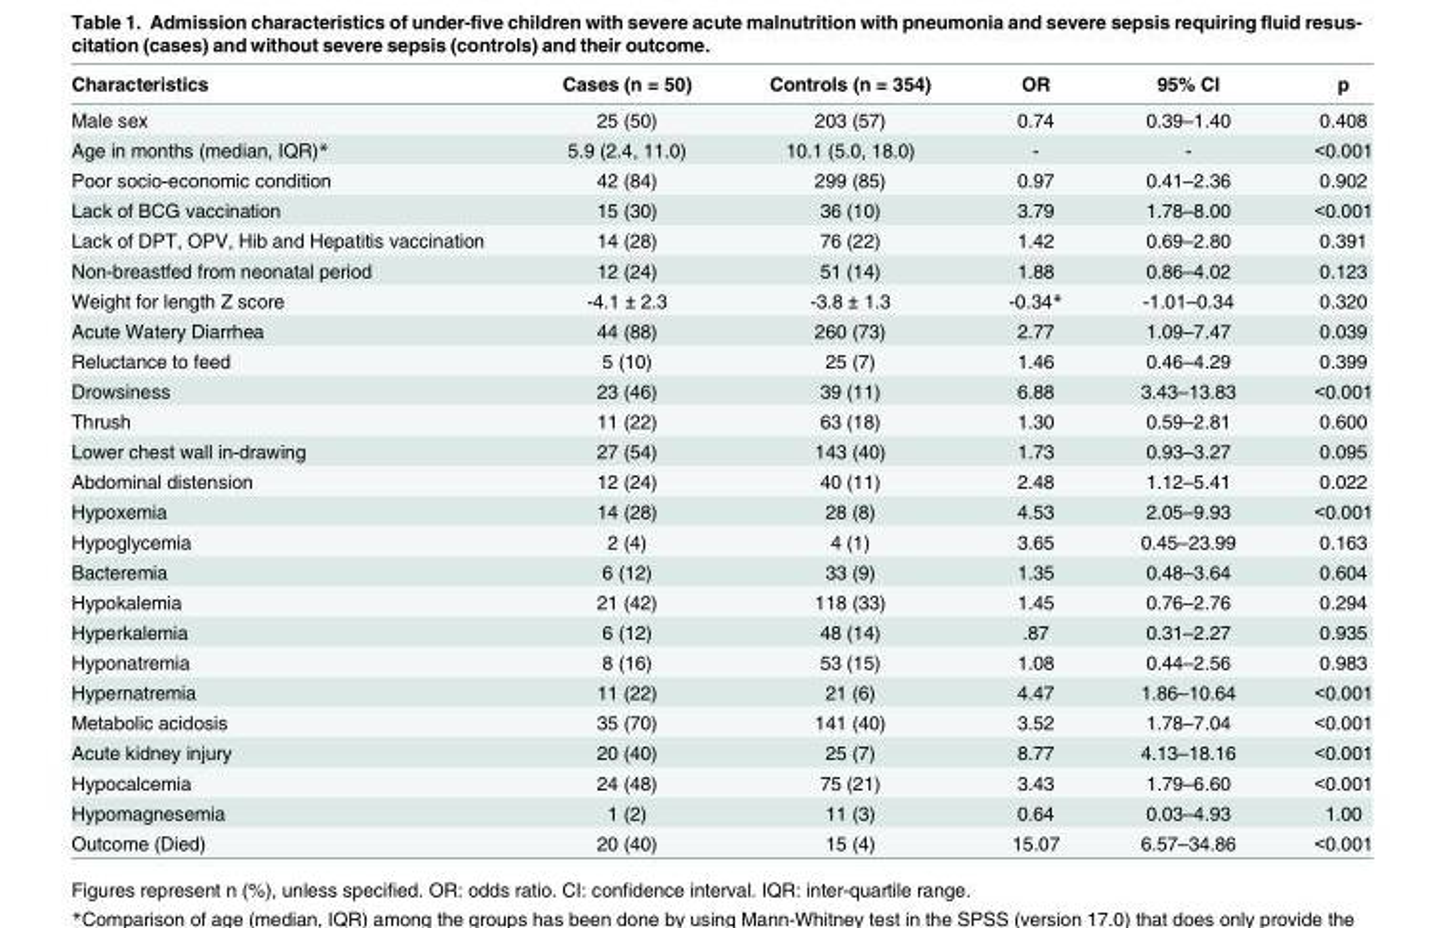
<table><thead><tr><td>Characteristics</td><td>Cases (n = 50)</td><td>Controls (n = 354)</td><td>OR</td><td>95% CI</td><td>p</td></tr></thead><tbody><tr><td>Male sex</td><td>25 (50)</td><td>203 (57)</td><td>0.74</td><td>0.39–1.40</td><td>0.408</td></tr><tr><td>Age in months (median, IQR)*</td><td>5.9 (2.4, 11.0)</td><td>10.1 (5.0, 18.0)</td><td>-</td><td>-</td><td>&lt;0.001</td></tr><tr><td>Poor socio-economic condition</td><td>42 (84)</td><td>299 (85)</td><td>0.97</td><td>0.41–2.36</td><td>0.902</td></tr><tr><td>Lack of BCG vaccination</td><td>15 (30)</td><td>36 (10)</td><td>3.79</td><td>1.78–8.00</td><td>&lt;0.001</td></tr><tr><td>Lack of DPT, OPV, Hib and Hepatitis vaccination</td><td>14 (28)</td><td>76 (22)</td><td>1.42</td><td>0.69–2.80</td><td>0.391</td></tr><tr><td>Non-breastfed from neonatal period</td><td>12 (24)</td><td>51 (14)</td><td>1.88</td><td>0.86–4.02</td><td>0.123</td></tr><tr><td>Weight for length Z score</td><td>-4.1 ± 2.3</td><td>-3.8 ± 1.3</td><td>-0.34*</td><td>-1.01–0.34</td><td>0.320</td></tr><tr><td>Acute Watery Diarrhea</td><td>44 (88)</td><td>260 (73)</td><td>2.77</td><td>1.09–7.47</td><td>0.039</td></tr><tr><td>Reluctance to feed</td><td>5 (10)</td><td>25 (7)</td><td>1.46</td><td>0.46–4.29</td><td>0.399</td></tr><tr><td>Drowsiness</td><td>23 (46)</td><td>39 (11)</td><td>6.88</td><td>3.43–13.83</td><td>&lt;0.001</td></tr><tr><td>Thrush</td><td>11 (22)</td><td>63 (18)</td><td>1.30</td><td>0.59–2.81</td><td>0.600</td></tr><tr><td>Lower chest wall in-drawing</td><td>27 (54)</td><td>143 (40)</td><td>1.73</td><td>0.93–3.27</td><td>0.095</td></tr><tr><td>Abdominal distension</td><td>12 (24)</td><td>40 (11)</td><td>2.48</td><td>1.12–5.41</td><td>0.022</td></tr><tr><td>Hypoxemia</td><td>14 (28)</td><td>28 (8)</td><td>4.53</td><td>2.05–9.93</td><td>&lt;0.001</td></tr><tr><td>Hypoglycemia</td><td>2 (4)</td><td>4 (1)</td><td>3.65</td><td>0.45–23.99</td><td>0.163</td></tr><tr><td>Bacteremia</td><td>6 (12)</td><td>33 (9)</td><td>1.35</td><td>0.48–3.64</td><td>0.604</td></tr><tr><td>Hypokalemia</td><td>21 (42)</td><td>118 (33)</td><td>1.45</td><td>0.76–2.76</td><td>0.294</td></tr><tr><td>Hyperkalemia</td><td>6 (12)</td><td>48 (14)</td><td>.87</td><td>0.31–2.27</td><td>0.935</td></tr><tr><td>Hyponatremia</td><td>8 (16)</td><td>53 (15)</td><td>1.08</td><td>0.44–2.56</td><td>0.983</td></tr><tr><td>Hypernatremia</td><td>11 (22)</td><td>21 (6)</td><td>4.47</td><td>1.86–10.64</td><td>&lt;0.001</td></tr><tr><td>Metabolic acidosis</td><td>35 (70)</td><td>141 (40)</td><td>3.52</td><td>1.78–7.04</td><td>&lt;0.001</td></tr><tr><td>Acute kidney injury</td><td>20 (40)</td><td>25 (7)</td><td>8.77</td><td>4.13–18.16</td><td>&lt;0.001</td></tr><tr><td>Hypocalcemia</td><td>24 (48)</td><td>75 (21)</td><td>3.43</td><td>1.79–6.60</td><td>&lt;0.001</td></tr><tr><td>Hypomagnesemia</td><td>1 (2)</td><td>11 (3)</td><td>0.64</td><td>0.03–4.93</td><td>1.00</td></tr><tr><td>Outcome (Died)</td><td>20 (40)</td><td>15 (4)</td><td>15.07</td><td>6.57–34.86</td><td>&lt;0.001</td></tr></tbody></table>